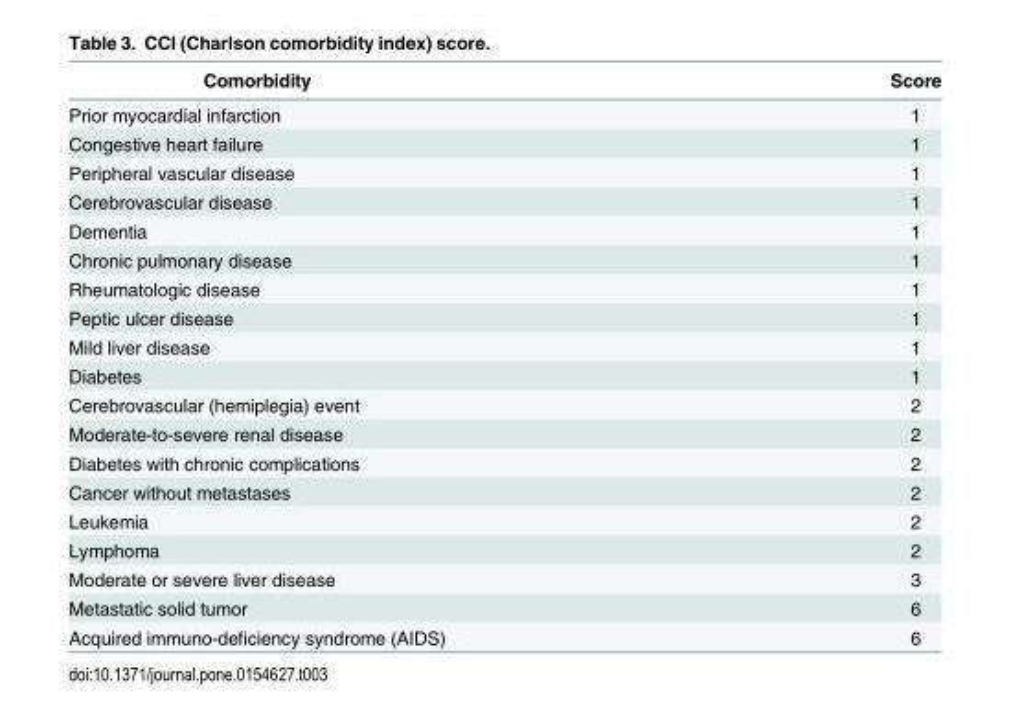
<table><thead><tr><td>Comorbidity</td><td>Score</td></tr></thead><tbody><tr><td>Prior myocardial infarction</td><td>1</td></tr><tr><td>Congestive heart failure</td><td>1</td></tr><tr><td>Peripheral vascular disease</td><td>1</td></tr><tr><td>Cerebrovascular disease</td><td>1</td></tr><tr><td>Dementia</td><td>1</td></tr><tr><td>Chronic pulmonary disease</td><td>1</td></tr><tr><td>Rheumatologic disease</td><td>1</td></tr><tr><td>Peptic ulcer disease</td><td>1</td></tr><tr><td>Mild liver disease</td><td>1</td></tr><tr><td>Diabetes</td><td>1</td></tr><tr><td>Cerebrovascular (hemiplegia) event</td><td>2</td></tr><tr><td>Moderate-to-severe renal disease</td><td>2</td></tr><tr><td>Diabetes with chronic complications</td><td>2</td></tr><tr><td>Cancer without metastases</td><td>2</td></tr><tr><td>Leukemia</td><td>2</td></tr><tr><td>Lymphoma</td><td>2</td></tr><tr><td>Moderate or severe liver disease</td><td>3</td></tr><tr><td>Metastatic solid tumor</td><td>6</td></tr><tr><td>Acquired immuno-deficiency syndrome (AIDS)</td><td>6</td></tr></tbody></table>